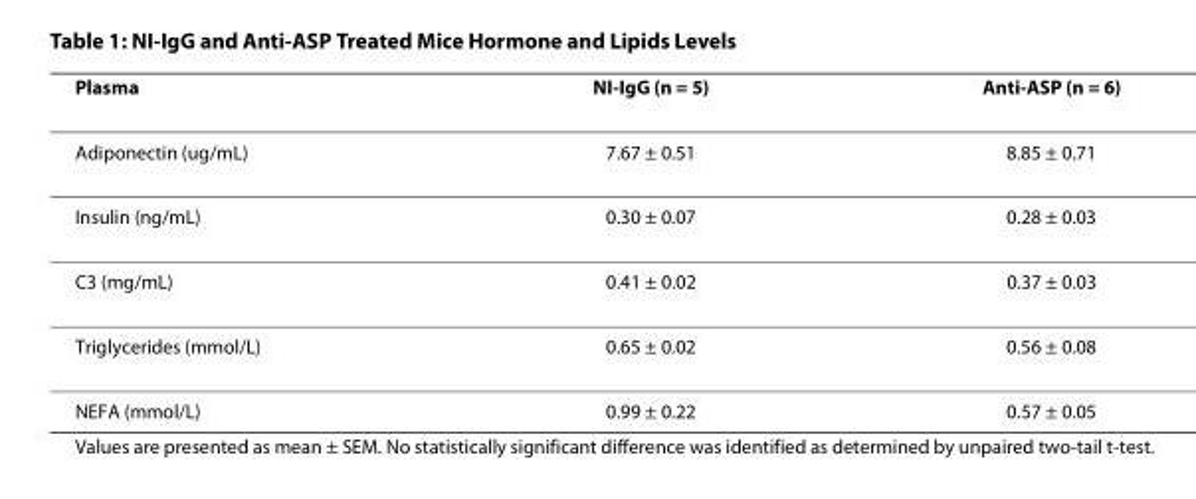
<table><thead><tr><td>Plasma</td><td>NI-IgG (n = 5)</td><td>Anti-ASP (n = 6)</td></tr></thead><tbody><tr><td>Adiponectin (ug/mL)</td><td>7.67 ± 0.51</td><td>8.85 ± 0.71</td></tr><tr><td>Insulin (ng/mL)</td><td>0.30 ± 0.07</td><td>0.28 ± 0.03</td></tr><tr><td>C3 (mg/mL)</td><td>0.41 ± 0.02</td><td>0.37 ± 0.03</td></tr><tr><td>Triglycerides (mmol/L)</td><td>0.65 ± 0.02</td><td>0.56 ± 0.08</td></tr><tr><td>NEFA (mmol/L)</td><td>0.99 ± 0.22</td><td>0.57 ± 0.05</td></tr></tbody></table>